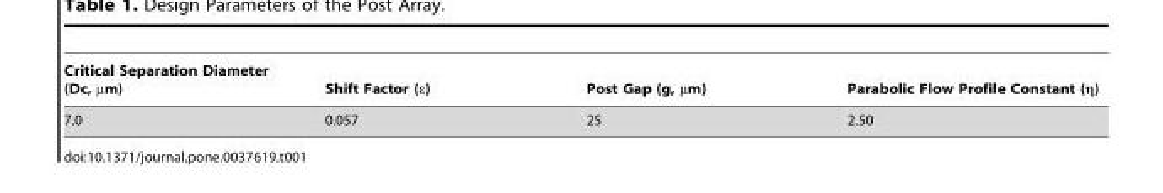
<table><thead><tr><td>Critical Separation Diameter (Dc, µm)</td><td>Shift Factor (ε)</td><td>Post Gap (g, µm)</td><td>Parabolic Flow Profile Constant (η)</td></tr></thead><tbody><tr><td>7.0</td><td>0.057</td><td>25</td><td>2.50</td></tr></tbody></table>